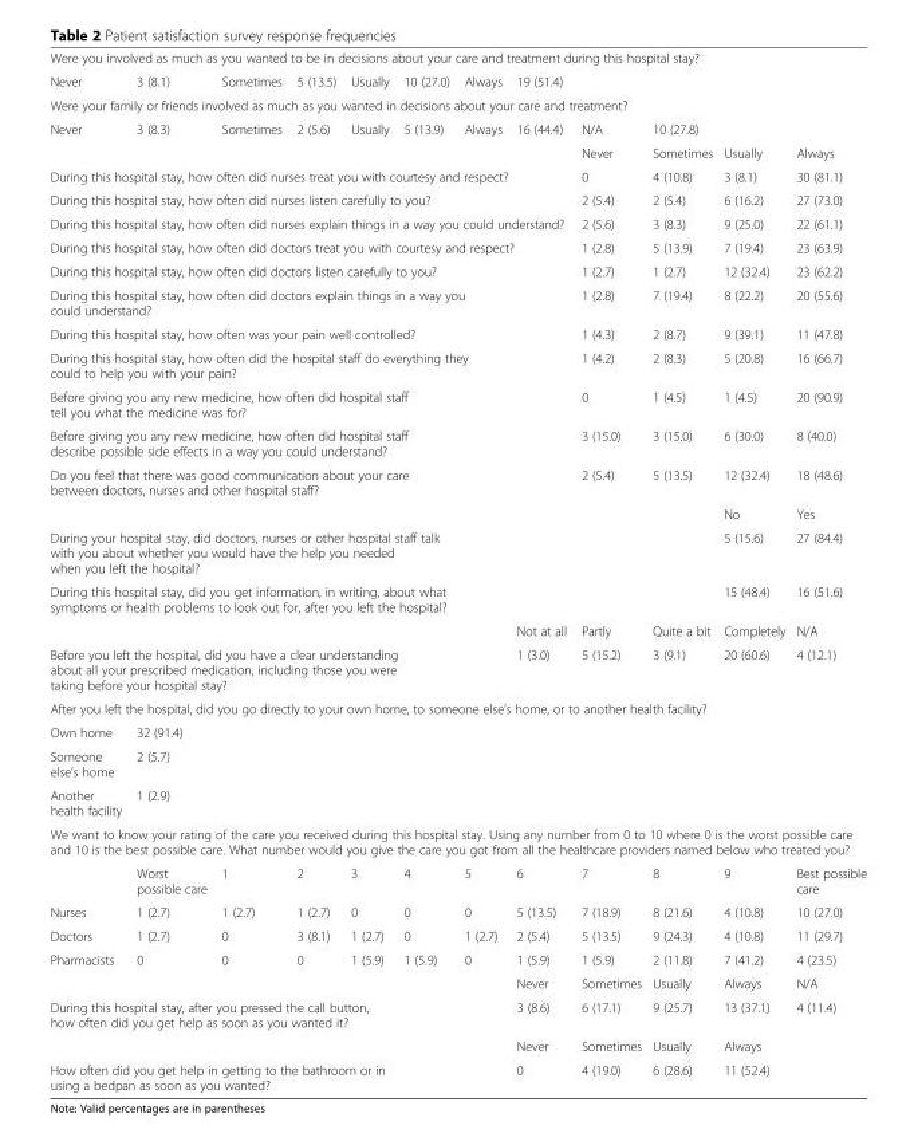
<table><tbody><tr><td colspan="12">Were you involved as much as you wanted to be in decisions about your care and treatment during this hospital stay?</td></tr><tr><td>Never</td><td>3 (8.1)</td><td>Sometimes</td><td>5 (13.5)</td><td>Usually</td><td>10 (27.0)</td><td>Always</td><td colspan="5">19 (51.4)</td></tr><tr><td colspan="12">Were your family or friends involved as much as you wanted in decisions about your care and treatment?</td></tr><tr><td>Never</td><td>3 (8.3)</td><td>Sometimes</td><td>2 (5.6)</td><td>Usually</td><td>5 (13.9)</td><td>Always</td><td>16 (44.4)</td><td>N/A</td><td colspan="3">10 (27.8)</td></tr><tr><td colspan="8"></td><td>Never</td><td>Sometimes</td><td>Usually</td><td>Always</td></tr><tr><td colspan="8">During this hospital stay, how often did nurses treat you with courtesy and respect?</td><td>0</td><td>4 (10.8)</td><td>3 (8.1)</td><td>30 (81.1)</td></tr><tr><td colspan="8">During this hospital stay, how often did nurses listen carefully to you?</td><td>2 (5.4)</td><td>2 (5.4)</td><td>6 (16.2)</td><td>27 (73.0)</td></tr><tr><td colspan="8">During this hospital stay, how often did nurses explain things in a way you could understand?</td><td>2 (5.6)</td><td>3 (8.3)</td><td>9 (25.0)</td><td>22 (61.1)</td></tr><tr><td colspan="8">During this hospital stay, how often did doctors treat you with courtesy and respect?</td><td>1 (2.8)</td><td>5 (13.9)</td><td>7 (19.4)</td><td>23 (63.9)</td></tr><tr><td colspan="8">During this hospital stay, how often did doctors listen carefully to you?</td><td>1 (2.7)</td><td>1 (2.7)</td><td>12 (32.4)</td><td>23 (62.2)</td></tr><tr><td colspan="8">During this hospital stay, how often did doctors explain things in a way you could understand?</td><td>1 (2.8)</td><td>7 (19.4)</td><td>8 (22.2)</td><td>20 (55.6)</td></tr><tr><td colspan="8">During this hospital stay, how often was your pain well controlled?</td><td>1 (4.3)</td><td>2 (8.7)</td><td>9 (39.1)</td><td>11 (47.8)</td></tr><tr><td colspan="8">During this hospital stay, how often did the hospital staff do everything they could to help you with your pain?</td><td>1 (4.2)</td><td>2 (8.3)</td><td>5 (20.8)</td><td>16 (66.7)</td></tr><tr><td colspan="8">Before giving you any new medicine, how often did hospital staff tell you what the medicine was for?</td><td>0</td><td>1 (4.5)</td><td>1 (4.5)</td><td>20 (90.9)</td></tr><tr><td colspan="8">Before giving you any new medicine, how often did hospital staff describe possible side effects in a way you could understand?</td><td>3 (15.0)</td><td>3 (15.0)</td><td>6 (30.0)</td><td>8 (40.0)</td></tr><tr><td colspan="8">Do you feel that there was good communication about your care between doctors, nurses and other hospital staff?</td><td>2 (5.4)</td><td>5 (13.5)</td><td>12 (32.4)</td><td>18 (48.6)</td></tr><tr><td colspan="10"></td><td>No</td><td>Yes</td></tr><tr><td colspan="10">During your hospital stay, did doctors, nurses or other hospital staff talk with you about whether you would have the help you needed when you left the hospital?</td><td>5 (15.6)</td><td>27 (84.4)</td></tr><tr><td colspan="10">During this hospital stay, did you get information, in writing, about what symptoms or health problems to look out for, after you left the hospital?</td><td>15 (48.4)</td><td>16 (51.6)</td></tr><tr><td colspan="7"></td><td>Not at all</td><td>Partly</td><td>Quite a bit</td><td>Completely</td><td>N/A</td></tr><tr><td colspan="7">Before you left the hospital, did you have a clear understanding about all your prescribed medication, including those you were taking before your hospital stay?</td><td>1 (3.0)</td><td>5 (15.2)</td><td>3 (9.1)</td><td>20 (60.6)</td><td>4 (12.1)</td></tr><tr><td colspan="12">After you left the hospital, did you go directly to your own home, to someone else’s home, or to another health facility?</td></tr><tr><td>Own home</td><td colspan="11">32 (91.4)</td></tr><tr><td>Someone else’s home</td><td colspan="11">2 (5.7)</td></tr><tr><td>Another health facility</td><td colspan="11">1 (2.9)</td></tr><tr><td colspan="12">We want to know your rating of the care you received during this hospital stay. Using any number from 0 to 10 where 0 is the worst possible care and 10 is the best possible care. What number would you give the care you got from all the healthcare providers named below who treated you?</td></tr><tr><td></td><td>Worst possible care</td><td>1</td><td>2</td><td>3</td><td>4</td><td>5</td><td>6</td><td>7</td><td>8</td><td>9</td><td>Best possible care</td></tr><tr><td>Nurses</td><td>1 (2.7)</td><td>1 (2.7)</td><td>1 (2.7)</td><td>0</td><td>0</td><td>0</td><td>5 (13.5)</td><td>7 (18.9)</td><td>8 (21.6)</td><td>4 (10.8)</td><td>10 (27.0)</td></tr><tr><td>Doctors</td><td>1 (2.7)</td><td>0</td><td>3 (8.1)</td><td>1 (2.7)</td><td>0</td><td>1 (2.7)</td><td>2 (5.4)</td><td>5 (13.5)</td><td>9 (24.3)</td><td>4 (10.8)</td><td>11 (29.7)</td></tr><tr><td>Pharmacists</td><td>0</td><td>0</td><td>0</td><td>1 (5.9)</td><td>1 (5.9)</td><td>0</td><td>1 (5.9)</td><td>1 (5.9)</td><td>2 (11.8)</td><td>7 (41.2)</td><td>4 (23.5)</td></tr><tr><td colspan="7"></td><td>Never</td><td>Sometimes</td><td>Usually</td><td>Always</td><td>N/A</td></tr><tr><td rowspan="2" colspan="7">During this hospital stay, after you pressed the call button, how often did you get help as soon as you wanted it?</td><td>3 (8.6)</td><td>6 (17.1)</td><td>9 (25.7)</td><td>13 (37.1)</td><td>4 (11.4)</td></tr><tr><td>Never</td><td>Sometimes</td><td>Usually</td><td>Always</td><td></td></tr><tr><td colspan="7">How often did you get help in getting to the bathroom or in using a bedpan as soon as you wanted?</td><td>0</td><td>4 (19.0)</td><td>6 (28.6)</td><td>11 (52.4)</td><td></td></tr></tbody></table>